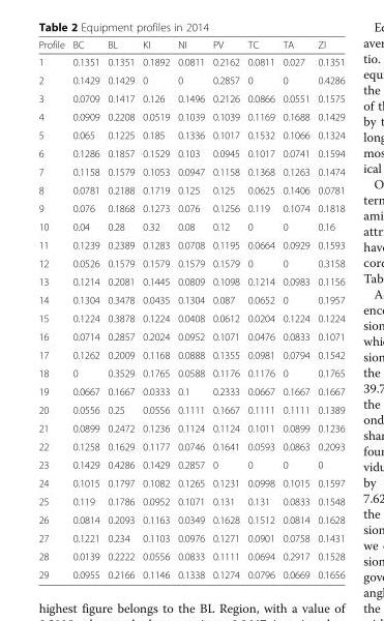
<table><thead><tr><td>Profile</td><td>BC</td><td>BL</td><td>KI</td><td>NI</td><td>PV</td><td>TC</td><td>TA</td><td>ZI</td></tr></thead><tbody><tr><td>1</td><td>0.1351</td><td>0.1351</td><td>0.1892</td><td>0.0811</td><td>0.2162</td><td>0.0811</td><td>0.027</td><td>0.1351</td></tr><tr><td>2</td><td>0.1429</td><td>0.1429</td><td>0</td><td>0</td><td>0.2857</td><td>0</td><td>0</td><td>0.4286</td></tr><tr><td>3</td><td>0.0709</td><td>0.1417</td><td>0.126</td><td>0.1496</td><td>0.2126</td><td>0.0866</td><td>0.0551</td><td>0.1575</td></tr><tr><td>4</td><td>0.0909</td><td>0.2208</td><td>0.0519</td><td>0.1039</td><td>0.1039</td><td>0.1169</td><td>0.1688</td><td>0.1429</td></tr><tr><td>5</td><td>0.065</td><td>0.1225</td><td>0.185</td><td>0.1336</td><td>0.1017</td><td>0.1532</td><td>0.1066</td><td>0.1324</td></tr><tr><td>6</td><td>0.1286</td><td>0.1857</td><td>0.1529</td><td>0.103</td><td>0.0945</td><td>0.1017</td><td>0.0741</td><td>0.1594</td></tr><tr><td>7</td><td>0.1158</td><td>0.1579</td><td>0.1053</td><td>0.0947</td><td>0.1158</td><td>0.1368</td><td>0.1263</td><td>0.1474</td></tr><tr><td>8</td><td>0.0781</td><td>0.2188</td><td>0.1719</td><td>0.125</td><td>0.125</td><td>0.0625</td><td>0.1406</td><td>0.0781</td></tr><tr><td>9</td><td>0.076</td><td>0.1868</td><td>0.1273</td><td>0.076</td><td>0.1256</td><td>0.119</td><td>0.1074</td><td>0.1818</td></tr><tr><td>10</td><td>0.04</td><td>0.28</td><td>0.32</td><td>0.08</td><td>0.12</td><td>0</td><td>0</td><td>0.16</td></tr><tr><td>11</td><td>0.1239</td><td>0.2389</td><td>0.1283</td><td>0.0708</td><td>0.1195</td><td>0.0664</td><td>0.0929</td><td>0.1593</td></tr><tr><td>12</td><td>0.0526</td><td>0.1579</td><td>0.1579</td><td>0.1579</td><td>0.1579</td><td>0</td><td>0</td><td>0.3158</td></tr><tr><td>13</td><td>0.1214</td><td>0.2081</td><td>0.1445</td><td>0.0809</td><td>0.1098</td><td>0.1214</td><td>0.0983</td><td>0.1156</td></tr><tr><td>14</td><td>0.1304</td><td>0.3478</td><td>0.0435</td><td>0.1304</td><td>0.087</td><td>0.0652</td><td>0</td><td>0.1957</td></tr><tr><td>15</td><td>0.1224</td><td>0.3878</td><td>0.1224</td><td>0.0408</td><td>0.0612</td><td>0.0204</td><td>0.1224</td><td>0.1224</td></tr><tr><td>16</td><td>0.0714</td><td>0.2857</td><td>0.2024</td><td>0.0952</td><td>0.1071</td><td>0.0476</td><td>0.0833</td><td>0.1071</td></tr><tr><td>17</td><td>0.1262</td><td>0.2009</td><td>0.1168</td><td>0.0888</td><td>0.1355</td><td>0.0981</td><td>0.0794</td><td>0.1542</td></tr><tr><td>18</td><td>0</td><td>0.3529</td><td>0.1765</td><td>0.0588</td><td>0.1176</td><td>0.1176</td><td>0</td><td>0.1765</td></tr><tr><td>19</td><td>0.0667</td><td>0.1667</td><td>0.0333</td><td>0.1</td><td>0.2333</td><td>0.0667</td><td>0.1667</td><td>0.1667</td></tr><tr><td>20</td><td>0.0556</td><td>0.25</td><td>0.0556</td><td>0.1111</td><td>0.1667</td><td>0.1111</td><td>0.1111</td><td>0.1389</td></tr><tr><td>21</td><td>0.0899</td><td>0.2472</td><td>0.1236</td><td>0.1124</td><td>0.1124</td><td>0.1011</td><td>0.0899</td><td>0.1236</td></tr><tr><td>22</td><td>0.1258</td><td>0.1629</td><td>0.1177</td><td>0.0746</td><td>0.1641</td><td>0.0593</td><td>0.0863</td><td>0.2093</td></tr><tr><td>23</td><td>0.1429</td><td>0.4286</td><td>0.1429</td><td>0.2857</td><td>0</td><td>0</td><td>0</td><td>0</td></tr><tr><td>24</td><td>0.1015</td><td>0.1797</td><td>0.1082</td><td>0.1265</td><td>0.1231</td><td>0.0998</td><td>0.1015</td><td>0.1597</td></tr><tr><td>25</td><td>0.119</td><td>0.1786</td><td>0.0952</td><td>0.1071</td><td>0.131</td><td>0.131</td><td>0.0833</td><td>0.1548</td></tr><tr><td>26</td><td>0.0814</td><td>0.2093</td><td>0.1163</td><td>0.0349</td><td>0.1628</td><td>0.1512</td><td>0.0814</td><td>0.1628</td></tr><tr><td>27</td><td>0.1221</td><td>0.234</td><td>0.1103</td><td>0.0976</td><td>0.1271</td><td>0.0901</td><td>0.0758</td><td>0.1431</td></tr><tr><td>28</td><td>0.0139</td><td>0.2222</td><td>0.0556</td><td>0.0833</td><td>0.1111</td><td>0.0694</td><td>0.2917</td><td>0.1528</td></tr><tr><td>29</td><td>0.0955</td><td>0.2166</td><td>0.1146</td><td>0.1338</td><td>0.1274</td><td>0.0796</td><td>0.0669</td><td>0.1656</td></tr></tbody></table>